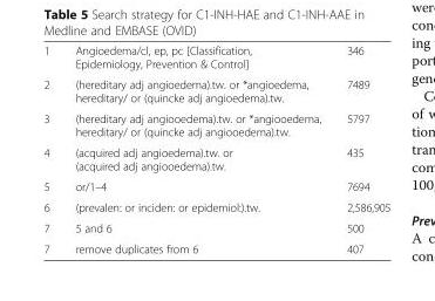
<table><tbody><tr><td>1</td><td>Angioedema/cl, ep, pc [Classification, Epidemiology, Prevention &amp; Control]</td><td>346</td></tr><tr><td>2</td><td>(hereditary adj angioedema).tw. or *angioedema, hereditary/ or (quincke adj angioedema).tw.</td><td>7489</td></tr><tr><td>3</td><td>(hereditary adj angiooedema).tw. or *angiooedema, hereditary/ or (quincke adj angiooedema).tw.</td><td>5797</td></tr><tr><td>4</td><td>(acquired adj angioedema).tw. or (acquired adj angiooedema).tw.</td><td>435</td></tr><tr><td>5</td><td>or/1–4</td><td>7694</td></tr><tr><td>6</td><td>(prevalen: or inciden: or epidemiol:).tw.</td><td>2,586,905</td></tr><tr><td>7</td><td>5 and 6</td><td>500</td></tr><tr><td>7</td><td>remove duplicates from 6</td><td>407</td></tr></tbody></table>